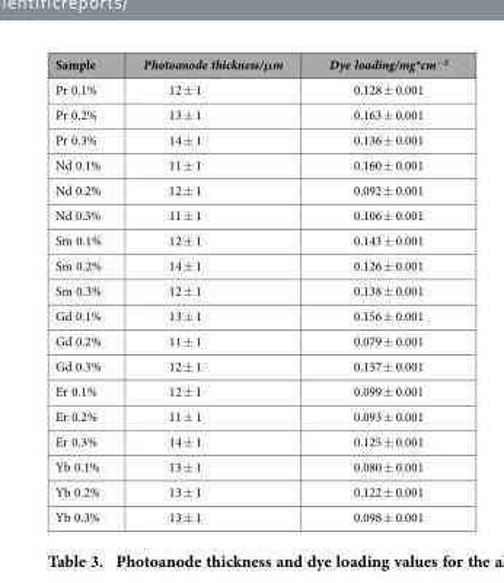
<table><thead><tr><td>Sample</td><td>Photoanode thickness/μm</td><td>Dye loading/mg*cm<sup>−2</sup></td></tr></thead><tbody><tr><td>Pr 0.1%</td><td>12 ± 1</td><td>0.128 ± 0.001</td></tr><tr><td>Pr 0.2%</td><td>13 ± 1</td><td>0.163 ± 0.001</td></tr><tr><td>Pr 0.3%</td><td>14 ± 1</td><td>0.136 ± 0.001</td></tr><tr><td>Nd 0.1%</td><td>11 ± 1</td><td>0.160 ± 0.001</td></tr><tr><td>Nd 0.2%</td><td>12 ± 1</td><td>0.092 ± 0.001</td></tr><tr><td>Nd 0.3%</td><td>11 ± 1</td><td>0.106 ± 0.001</td></tr><tr><td>Sm 0.1%</td><td>12 ± 1</td><td>0.143 ± 0.001</td></tr><tr><td>Sm 0.2%</td><td>14 ± 1</td><td>0.126 ± 0.001</td></tr><tr><td>Sm 0.3%</td><td>12 ± 1</td><td>0.138 ± 0.001</td></tr><tr><td>Gd 0.1%</td><td>13 ± 1</td><td>0.156 ± 0.001</td></tr><tr><td>Gd 0.2%</td><td>11 ± 1</td><td>0.079 ± 0.001</td></tr><tr><td>Gd 0.3%</td><td>12 ± 1</td><td>0.157 ± 0.001</td></tr><tr><td>Er 0.1%</td><td>12 ± 1</td><td>0.099 ± 0.001</td></tr><tr><td>Er 0.2%</td><td>11 ± 1</td><td>0.093 ± 0.001</td></tr><tr><td>Er 0.3%</td><td>14 ± 1</td><td>0.125 ± 0.001</td></tr><tr><td>Yb 0.1%</td><td>13 ± 1</td><td>0.080 ± 0.001</td></tr><tr><td>Yb 0.2%</td><td>13 ± 1</td><td>0.122 ± 0.001</td></tr><tr><td>Yb 0.3%</td><td>13 ± 1</td><td>0.098 ± 0.001</td></tr></tbody></table>